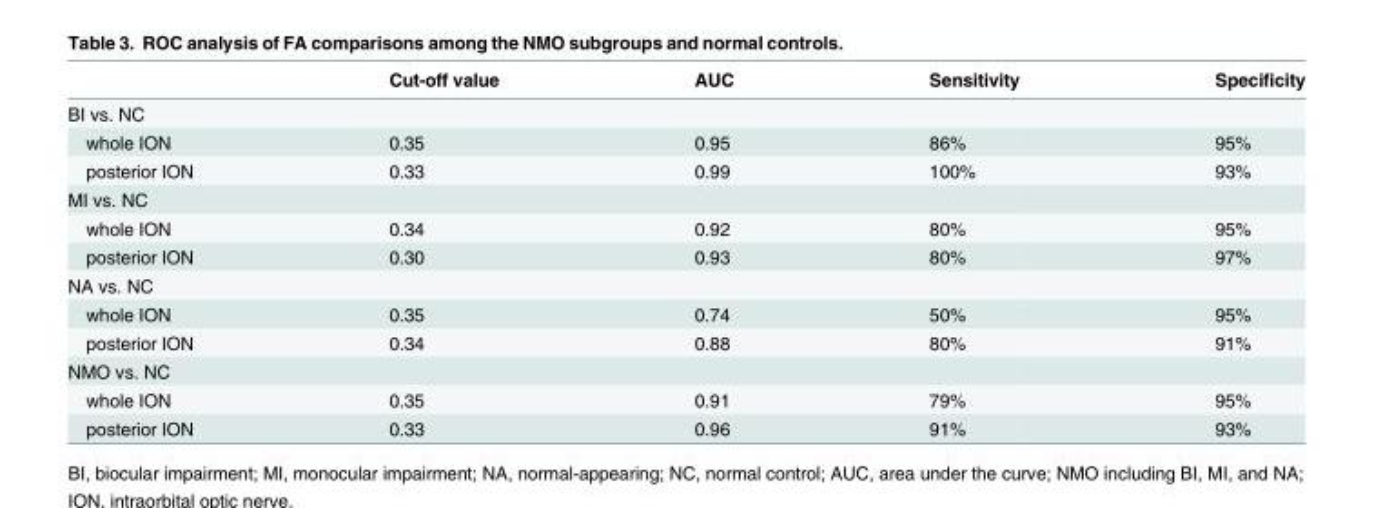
<table><thead><tr><td></td><td>Cut-off value</td><td>AUC</td><td>Sensitivity</td><td>Specificity</td></tr></thead><tbody><tr><td colspan="5">BI vs. NC</td></tr><tr><td>whole ION</td><td>0.35</td><td>0.95</td><td>86%</td><td>95%</td></tr><tr><td>posterior ION</td><td>0.33</td><td>0.99</td><td>100%</td><td>93%</td></tr><tr><td colspan="5">MI vs. NC</td></tr><tr><td>whole ION</td><td>0.34</td><td>0.92</td><td>80%</td><td>95%</td></tr><tr><td>posterior ION</td><td>0.30</td><td>0.93</td><td>80%</td><td>97%</td></tr><tr><td colspan="5">NA vs. NC</td></tr><tr><td>whole ION</td><td>0.35</td><td>0.74</td><td>50%</td><td>95%</td></tr><tr><td>posterior ION</td><td>0.34</td><td>0.88</td><td>80%</td><td>91%</td></tr><tr><td colspan="5">NMO vs. NC</td></tr><tr><td>whole ION</td><td>0.35</td><td>0.91</td><td>79%</td><td>95%</td></tr><tr><td>posterior ION</td><td>0.33</td><td>0.96</td><td>91%</td><td>93%</td></tr></tbody></table>